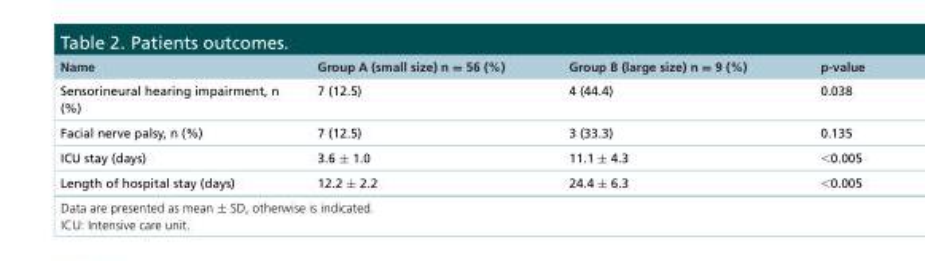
<table><thead><tr><td>Name</td><td>Group A (small size) n = 56 (%)</td><td>Group B (large size) n = 9 (%)</td><td>p-value</td></tr></thead><tbody><tr><td>Sensorineural hearing impairment, n (%)</td><td>7 (12.5)</td><td>4 (44.4)</td><td>0.038</td></tr><tr><td>Facial nerve palsy, n (%)</td><td>7 (12.5)</td><td>3 (33.3)</td><td>0.135</td></tr><tr><td>ICU stay (days)</td><td>3.6 ± 1.0</td><td>11.1 ± 4.3</td><td>&lt;0.005</td></tr><tr><td>Length of hospital stay (days)</td><td>12.2 ± 2.2</td><td>24.4 ± 6.3</td><td>&lt;0.005</td></tr></tbody></table>